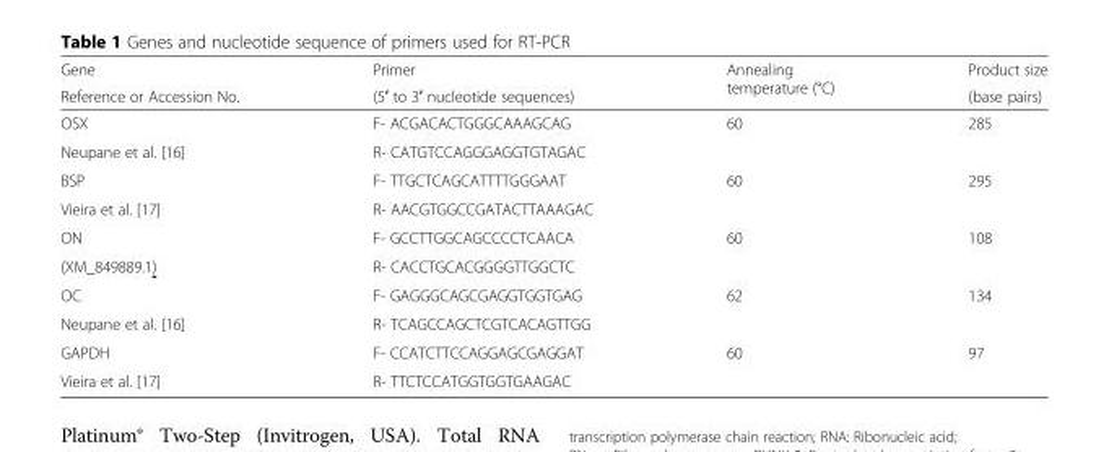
<table><thead><tr><td rowspan="2">Gene Reference or Accession No.</td><td rowspan="2">Primer (5′ to 3′ nucleotide sequences)</td><td rowspan="2">Annealing temperature (°C)</td><td rowspan="2">Product size (base pairs)</td></tr><tr></tr></thead><tbody><tr><td>OSX</td><td>F- ACGACACTGGGCAAAGCAG</td><td rowspan="2">60</td><td rowspan="2">285</td></tr><tr><td>Neupane et al. [16]</td><td>R- CATGTCCAGGGAGGTGTAGAC</td></tr><tr><td>BSP</td><td>F- TTGCTCAGCATTTTGGGAAT</td><td rowspan="2">60</td><td rowspan="2">295</td></tr><tr><td>Vieira et al. [17]</td><td>R- AACGTGGCCGATACTTAAAGAC</td></tr><tr><td>ON</td><td>F- GCCTTGGCAGCCCCTCAACA</td><td rowspan="2">60</td><td rowspan="2">108</td></tr><tr><td>(XM_849889.1)</td><td>R- CACCTGCACGGGGTTGGCTC</td></tr><tr><td>OC</td><td>F- GAGGGCAGCGAGGTGGTGAG</td><td rowspan="2">62</td><td rowspan="2">134</td></tr><tr><td>Neupane et al. [16]</td><td>R- TCAGCCAGCTCGTCACAGTTGG</td></tr><tr><td>GAPDH</td><td>F- CCATCTTCCAGGAGCGAGGAT</td><td rowspan="2">60</td><td rowspan="2">97</td></tr><tr><td>Vieira et al. [17]</td><td>R- TTCTCCATGGTGGTGAAGAC</td></tr></tbody></table>